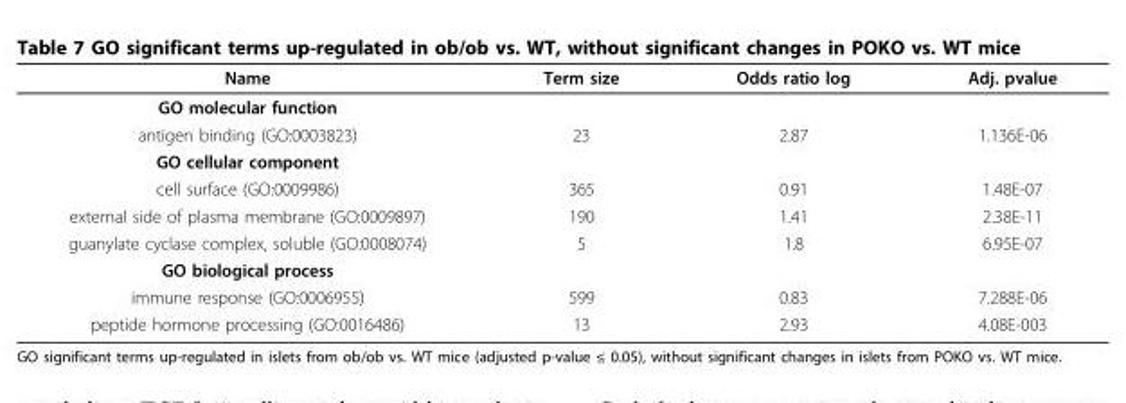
<table><thead><tr><td>Name</td><td>Term size</td><td>Odds ratio log</td><td>Adj. pvalue</td></tr></thead><tbody><tr><td colspan="4">GO molecular function</td></tr><tr><td>antigen binding (GO:0003823)</td><td>23</td><td>2.87</td><td>1.136E-06</td></tr><tr><td colspan="4">GO cellular component</td></tr><tr><td>cell surface (GO:0009986)</td><td>365</td><td>0.91</td><td>1.48E-07</td></tr><tr><td>external side of plasma membrane (GO:0009897)</td><td>190</td><td>1.41</td><td>2.38E-11</td></tr><tr><td>guanylate cyclase complex, soluble (GO:0008074)</td><td>5</td><td>1.8</td><td>6.95E-07</td></tr><tr><td colspan="4">GO biological process</td></tr><tr><td>immune response (GO:0006955)</td><td>599</td><td>0.83</td><td>7.288E-06</td></tr><tr><td>peptide hormone processing (GO:0016486)</td><td>13</td><td>2.93</td><td>4.08E-003</td></tr></tbody></table>